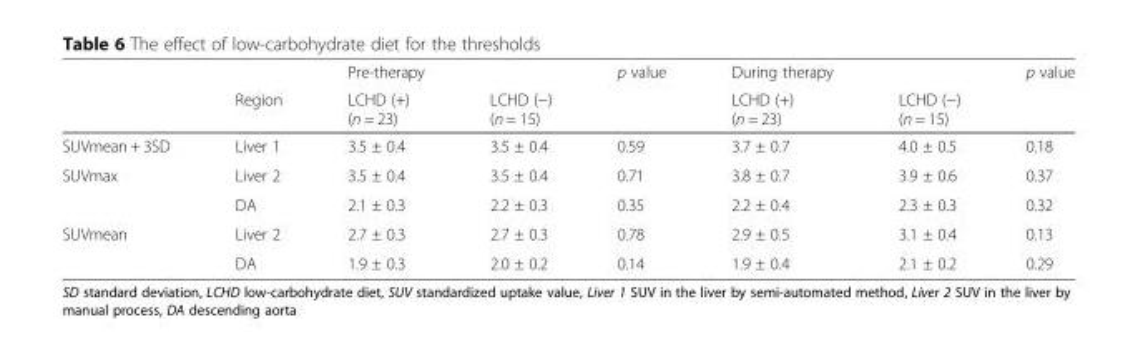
<table><thead><tr><td rowspan="2"></td><td rowspan="2">Region</td><td rowspan="2">Pre-therapy LCHD (+) (n = 23)</td><td rowspan="2">LCHD (−) (n = 15)</td><td rowspan="2">p value</td><td rowspan="2">During therapy LCHD (+) (n = 23)</td><td rowspan="2">LCHD (−) (n = 15)</td><td rowspan="2">p value</td></tr><tr></tr></thead><tbody><tr><td>SUVmean + 3SD</td><td>Liver 1</td><td>3.5 ± 0.4</td><td>3.5 ± 0.4</td><td>0.59</td><td>3.7 ± 0.7</td><td>4.0 ± 0.5</td><td>0.18</td></tr><tr><td rowspan="2">SUVmax</td><td>Liver 2</td><td>3.5 ± 0.4</td><td>3.5 ± 0.4</td><td>0.71</td><td>3.8 ± 0.7</td><td>3.9 ± 0.6</td><td>0.37</td></tr><tr><td>DA</td><td>2.1 ± 0.3</td><td>2.2 ± 0.3</td><td>0.35</td><td>2.2 ± 0.4</td><td>2.3 ± 0.3</td><td>0.32</td></tr><tr><td rowspan="2">SUVmean</td><td>Liver 2</td><td>2.7 ± 0.3</td><td>2.7 ± 0.3</td><td>0.78</td><td>2.9 ± 0.5</td><td>3.1 ± 0.4</td><td>0.13</td></tr><tr><td>DA</td><td>1.9 ± 0.3</td><td>2.0 ± 0.2</td><td>0.14</td><td>1.9 ± 0.4</td><td>2.1 ± 0.2</td><td>0.29</td></tr></tbody></table>